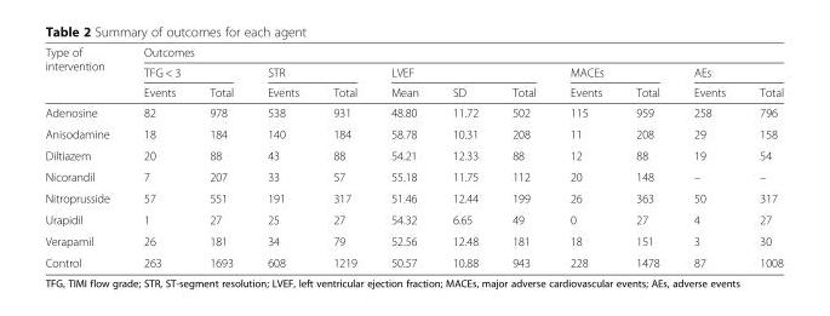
<table><thead><tr><td rowspan="3">Type of intervention</td><td colspan="11">Outcomes</td></tr><tr><td colspan="2">TFG &lt; 3</td><td colspan="2">STR</td><td colspan="3">LVEF</td><td colspan="2">MACEs</td><td colspan="2">AEs</td></tr><tr><td>Events</td><td>Total</td><td>Events</td><td>Total</td><td>Mean</td><td>SD</td><td>Total</td><td>Events</td><td>Total</td><td>Events</td><td>Total</td></tr></thead><tbody><tr><td>Adenosine</td><td>82</td><td>978</td><td>538</td><td>931</td><td>48.80</td><td>11.72</td><td>502</td><td>115</td><td>959</td><td>258</td><td>796</td></tr><tr><td>Anisodamine</td><td>18</td><td>184</td><td>140</td><td>184</td><td>58.78</td><td>10.31</td><td>208</td><td>11</td><td>208</td><td>29</td><td>158</td></tr><tr><td>Diltiazem</td><td>20</td><td>88</td><td>43</td><td>88</td><td>54.21</td><td>12.33</td><td>88</td><td>12</td><td>88</td><td>19</td><td>54</td></tr><tr><td>Nicorandil</td><td>7</td><td>207</td><td>33</td><td>57</td><td>55.18</td><td>11.75</td><td>112</td><td>20</td><td>148</td><td>–</td><td>–</td></tr><tr><td>Nitroprusside</td><td>57</td><td>551</td><td>191</td><td>317</td><td>51.46</td><td>12.44</td><td>199</td><td>26</td><td>363</td><td>50</td><td>317</td></tr><tr><td>Urapidil</td><td>1</td><td>27</td><td>25</td><td>27</td><td>54.32</td><td>6.65</td><td>49</td><td>0</td><td>27</td><td>4</td><td>27</td></tr><tr><td>Verapamil</td><td>26</td><td>181</td><td>34</td><td>79</td><td>52.56</td><td>12.48</td><td>181</td><td>18</td><td>151</td><td>3</td><td>30</td></tr><tr><td>Control</td><td>263</td><td>1693</td><td>608</td><td>1219</td><td>50.57</td><td>10.88</td><td>943</td><td>228</td><td>1478</td><td>87</td><td>1008</td></tr></tbody></table>